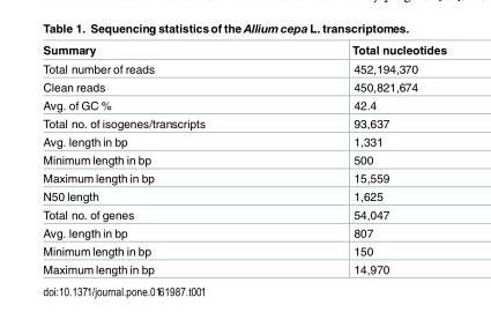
<table><thead><tr><td>Summary</td><td>Total nucleotides</td></tr></thead><tbody><tr><td>Total number of reads</td><td>452,194,370</td></tr><tr><td>Clean reads</td><td>450,821,674</td></tr><tr><td>Avg. of GC %</td><td>42.4</td></tr><tr><td>Total no. of isogenes/transcripts</td><td>93,637</td></tr><tr><td>Avg. length in bp</td><td>1,331</td></tr><tr><td>Minimum length in bp</td><td>500</td></tr><tr><td>Maximum length in bp</td><td>15,559</td></tr><tr><td>N50 length</td><td>1,625</td></tr><tr><td>Total no. of genes</td><td>54,047</td></tr><tr><td>Avg. length in bp</td><td>807</td></tr><tr><td>Minimum length in bp</td><td>150</td></tr><tr><td>Maximum length in bp</td><td>14,970</td></tr></tbody></table>